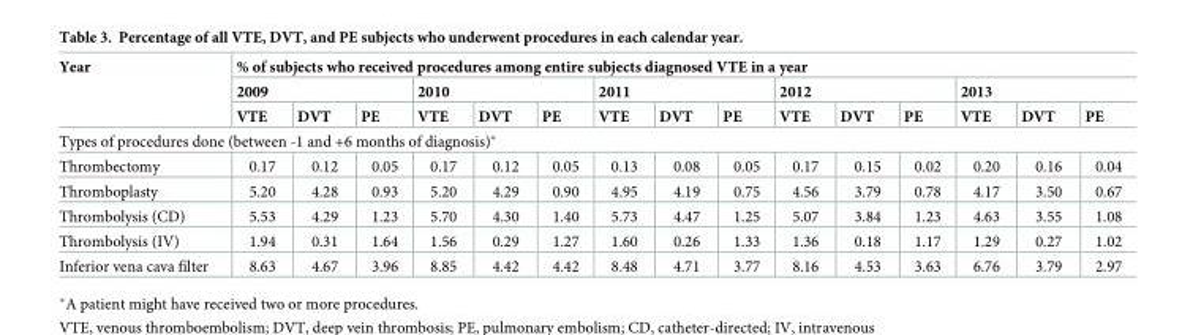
<table><thead><tr><td rowspan="3">Year</td><td colspan="15">% of subjects who received procedures among entire subjects diagnosed VTE in a year</td></tr><tr><td colspan="3">2009</td><td colspan="3">2010</td><td colspan="3">2011</td><td colspan="3">2012</td><td colspan="3">2013</td></tr><tr><td>VTE</td><td>DVT</td><td>PE</td><td>VTE</td><td>DVT</td><td>PE</td><td>VTE</td><td>DVT</td><td>PE</td><td>VTE</td><td>DVT</td><td>PE</td><td>VTE</td><td>DVT</td><td>PE</td></tr></thead><tbody><tr><td colspan="16">Types of procedures done (between -1 and +6 months of diagnosis)*</td></tr><tr><td>Thrombectomy</td><td>0.17</td><td>0.12</td><td>0.05</td><td>0.17</td><td>0.12</td><td>0.05</td><td>0.13</td><td>0.08</td><td>0.05</td><td>0.17</td><td>0.15</td><td>0.02</td><td>0.20</td><td>0.16</td><td>0.04</td></tr><tr><td>Thromboplasty</td><td>5.20</td><td>4.28</td><td>0.93</td><td>5.20</td><td>4.29</td><td>0.90</td><td>4.95</td><td>4.19</td><td>0.75</td><td>4.56</td><td>3.79</td><td>0.78</td><td>4.17</td><td>3.50</td><td>0.67</td></tr><tr><td>Thrombolysis (CD)</td><td>5.53</td><td>4.29</td><td>1.23</td><td>5.70</td><td>4.30</td><td>1.40</td><td>5.73</td><td>4.47</td><td>1.25</td><td>5.07</td><td>3.84</td><td>1.23</td><td>4.63</td><td>3.55</td><td>1.08</td></tr><tr><td>Thrombolysis (IV)</td><td>1.94</td><td>0.31</td><td>1.64</td><td>1.56</td><td>0.29</td><td>1.27</td><td>1.60</td><td>0.26</td><td>1.33</td><td>1.36</td><td>0.18</td><td>1.17</td><td>1.29</td><td>0.27</td><td>1.02</td></tr><tr><td>Inferior vena cava filter</td><td>8.63</td><td>4.67</td><td>3.96</td><td>8.85</td><td>4.42</td><td>4.42</td><td>8.48</td><td>4.71</td><td>3.77</td><td>8.16</td><td>4.53</td><td>3.63</td><td>6.76</td><td>3.79</td><td>2.97</td></tr></tbody></table>